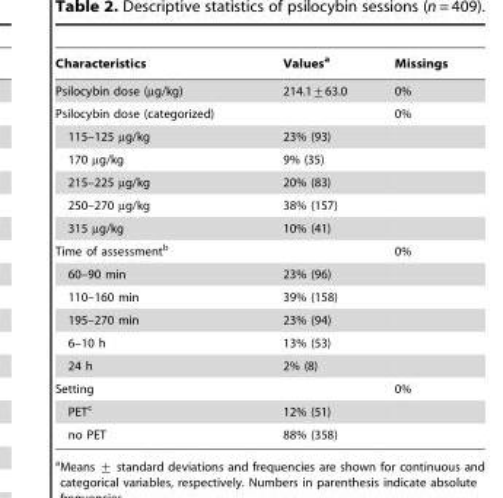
<table><thead><tr><td>Characteristics</td><td>Values<sup>a</sup></td><td>Missings</td></tr></thead><tbody><tr><td>Psilocybin dose (µg/kg)</td><td>214.1+63.0</td><td>0%</td></tr><tr><td>Psilocybin dose (categorized)</td><td></td><td>0%</td></tr><tr><td>115–125 µg/kg</td><td>23% (93)</td><td></td></tr><tr><td>170 µg/kg</td><td>9% (35)</td><td></td></tr><tr><td>215–225 µg/kg</td><td>20% (83)</td><td></td></tr><tr><td>250–270 µg/kg</td><td>38% (157)</td><td></td></tr><tr><td>315 µg/kg</td><td>10% (41)</td><td></td></tr><tr><td>Time of assessment<sup>b</sup></td><td></td><td>0%</td></tr><tr><td>60–90 min</td><td>23% (96)</td><td></td></tr><tr><td>110–160 min</td><td>39% (158)</td><td></td></tr><tr><td>195–270 min</td><td>23% (94)</td><td></td></tr><tr><td>6–10 h</td><td>13% (53)</td><td></td></tr><tr><td>24 h</td><td>2% (8)</td><td></td></tr><tr><td>Setting</td><td></td><td>0%</td></tr><tr><td>PET<sup>c</sup></td><td>12% (51)</td><td></td></tr><tr><td>no PET</td><td>88% (358)</td><td></td></tr></tbody></table>